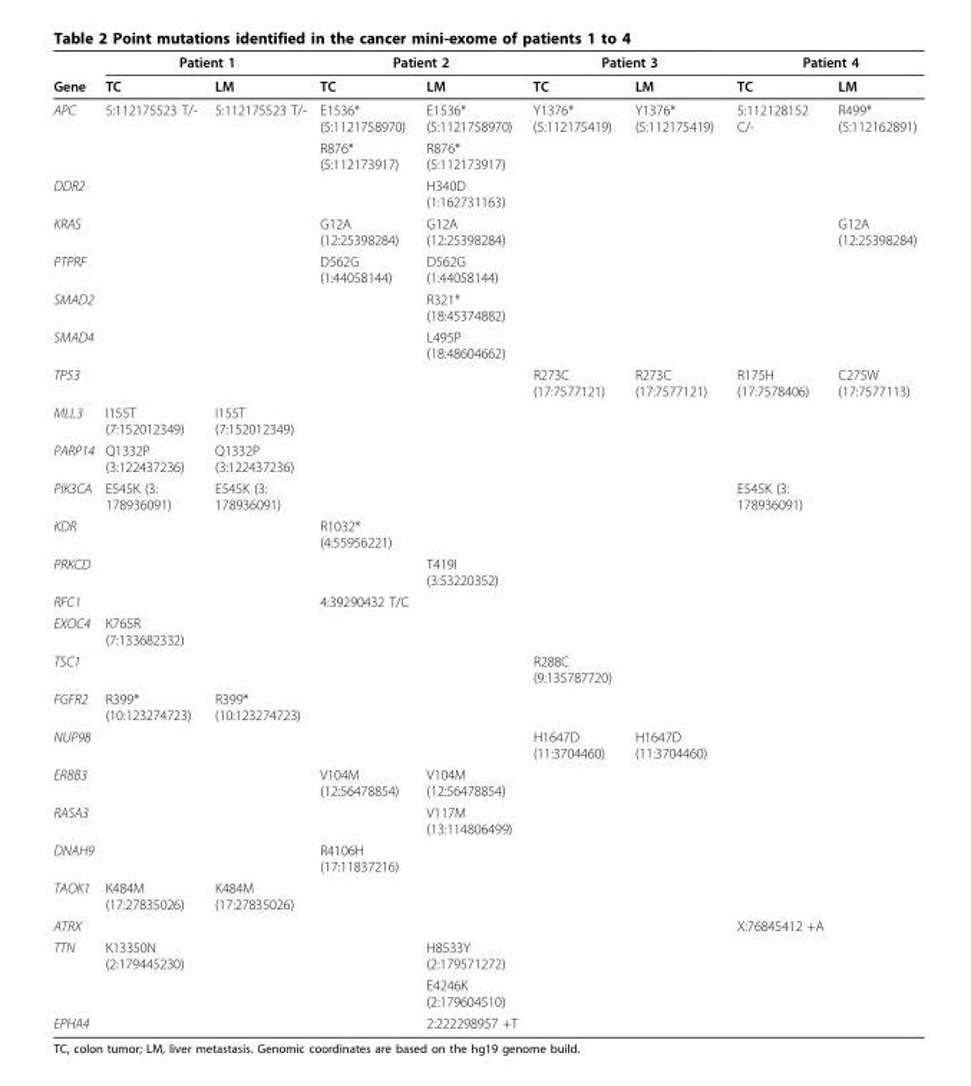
<table><thead><tr><td rowspan="2">Gene</td><td colspan="2">Patient 1</td><td colspan="2">Patient 2</td><td colspan="2">Patient 3</td><td colspan="2">Patient 4</td></tr><tr><td>TC</td><td>LM</td><td>TC</td><td>LM</td><td>TC</td><td>LM</td><td>TC</td><td>LM</td></tr></thead><tbody><tr><td rowspan="2">APC</td><td>5:112175523 T/-</td><td>5:112175523 T/-</td><td>E1536* (5:1121758970)</td><td>E1536* (5:1121758970)</td><td>Y1376* (5:112175419)</td><td>Y1376* (5:112175419)</td><td>5:112128152 C/-</td><td>R499* (5:112162891)</td></tr><tr><td></td><td></td><td>R876* (5:112173917)</td><td>R876* (5:112173917)</td><td></td><td></td><td></td><td></td></tr><tr><td>DDR2</td><td></td><td></td><td></td><td>H340D (1:162731163)</td><td></td><td></td><td></td><td></td></tr><tr><td>KRAS</td><td></td><td></td><td>G12A (12:25398284)</td><td>G12A (12:25398284)</td><td></td><td></td><td></td><td>G12A (12:25398284)</td></tr><tr><td>PTPRF</td><td></td><td></td><td>D562G (1:44058144)</td><td>D562G (1:44058144)</td><td></td><td></td><td></td><td></td></tr><tr><td>SMAD2</td><td></td><td></td><td></td><td>R321* (18:45374882)</td><td></td><td></td><td></td><td></td></tr><tr><td>SMAD4</td><td></td><td></td><td></td><td>L495P (18:48604662)</td><td></td><td></td><td></td><td></td></tr><tr><td>TP53</td><td></td><td></td><td></td><td></td><td>R273C (17:7577121)</td><td>R273C (17:7577121)</td><td>R175H (17:7578406)</td><td>C275W (17:7577113)</td></tr><tr><td>MLL3</td><td>I155T (7:152012349)</td><td>I155T (7:152012349)</td><td></td><td></td><td></td><td></td><td></td><td></td></tr><tr><td>PARP14</td><td>Q1332P (3:122437236)</td><td>Q1332P (3:122437236)</td><td></td><td></td><td></td><td></td><td></td><td></td></tr><tr><td>PIK3CA</td><td>E545K (3: 178936091)</td><td>E545K (3: 178936091)</td><td></td><td></td><td></td><td></td><td>E545K (3: 178936091)</td><td></td></tr><tr><td>KDR</td><td></td><td></td><td>R1032* (4:55956221)</td><td></td><td></td><td></td><td></td><td></td></tr><tr><td>PRKCD</td><td></td><td></td><td></td><td>T419I (3:53220352)</td><td></td><td></td><td></td><td></td></tr><tr><td>RFC1</td><td></td><td></td><td>4:39290432 T/C</td><td></td><td></td><td></td><td></td><td></td></tr><tr><td>EXOC4</td><td>K765R (7:133682332)</td><td></td><td></td><td></td><td></td><td></td><td></td><td></td></tr><tr><td>TSC1</td><td></td><td></td><td></td><td></td><td>R288C (9:135787720)</td><td></td><td></td><td></td></tr><tr><td>FGFR2</td><td>R399* (10:123274723)</td><td>R399* (10:123274723)</td><td></td><td></td><td></td><td></td><td></td><td></td></tr><tr><td>NUP98</td><td></td><td></td><td></td><td></td><td>H1647D (11:3704460)</td><td>H1647D (11:3704460)</td><td></td><td></td></tr><tr><td>ERBB3</td><td></td><td></td><td>V104M (12:56478854)</td><td>V104M (12:56478854)</td><td></td><td></td><td></td><td></td></tr><tr><td>RASA3</td><td></td><td></td><td></td><td>V117M (13:114806499)</td><td></td><td></td><td></td><td></td></tr><tr><td>DNAH9</td><td></td><td></td><td>R4106H (17:11837216)</td><td></td><td></td><td></td><td></td><td></td></tr><tr><td>TAOK1</td><td>K484M (17:27835026)</td><td>K484M (17:27835026)</td><td></td><td></td><td></td><td></td><td></td><td></td></tr><tr><td>ATRX</td><td></td><td></td><td></td><td></td><td></td><td></td><td>X:76845412 +A</td><td></td></tr><tr><td rowspan="2">TTN</td><td>K13350N (2:179445230)</td><td></td><td></td><td>H8533Y (2:179571272)</td><td></td><td></td><td></td><td></td></tr><tr><td></td><td></td><td></td><td>E4246K (2:179604510)</td><td></td><td></td><td></td><td></td></tr><tr><td>EPHA4</td><td></td><td></td><td></td><td>2:222298957 +T</td><td></td><td></td><td></td><td></td></tr></tbody></table>